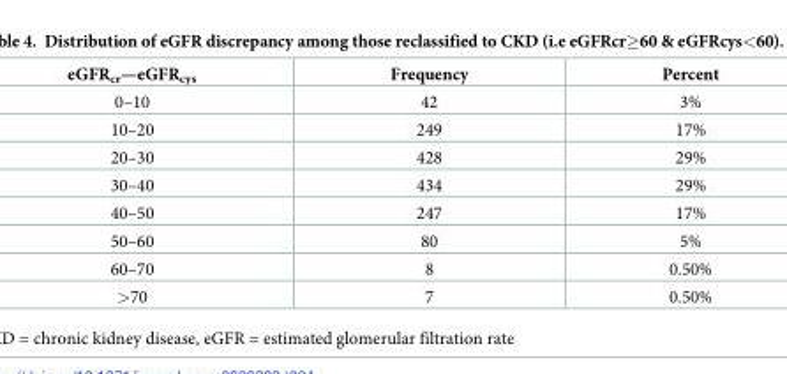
<table><thead><tr><td>eGFR<sub>cr</sub>—eGFR<sub>cys</sub></td><td>Frequency</td><td>Percent</td></tr></thead><tbody><tr><td>0–10</td><td>42</td><td>3%</td></tr><tr><td>10–20</td><td>249</td><td>17%</td></tr><tr><td>20–30</td><td>428</td><td>29%</td></tr><tr><td>30–40</td><td>434</td><td>29%</td></tr><tr><td>40–50</td><td>247</td><td>17%</td></tr><tr><td>50–60</td><td>80</td><td>5%</td></tr><tr><td>60–70</td><td>8</td><td>0.50%</td></tr><tr><td>&gt;70</td><td>7</td><td>0.50%</td></tr></tbody></table>